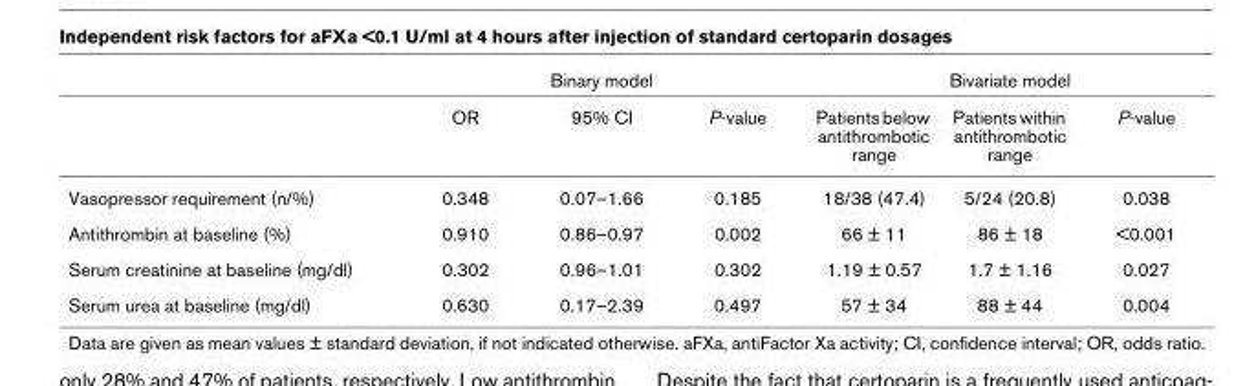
<table><thead><tr><td rowspan="2"></td><td colspan="3">Binary model</td><td colspan="3">Bivariate model</td></tr><tr><td>OR</td><td>95% CI</td><td>P-value</td><td>Patients below antithrombotic range</td><td>Patients within antithrombotic range</td><td>P-value</td></tr></thead><tbody><tr><td>Vasopressor requirement (n/%)</td><td>0.348</td><td>0.07–1.66</td><td>0.185</td><td>18/38 (47.4)</td><td>5/24 (20.8)</td><td>0.038</td></tr><tr><td>Antithrombin at baseline (%)</td><td>0.910</td><td>0.86–0.97</td><td>0.002</td><td>66 ± 11</td><td>86 ± 18</td><td>&lt;0.001</td></tr><tr><td>Serum creatinine at baseline (mg/dl)</td><td>0.302</td><td>0.96–1.01</td><td>0.302</td><td>1.19 ± 0.57</td><td>1.7 ± 1.16</td><td>0.027</td></tr><tr><td>Serum urea at baseline (mg/dl)</td><td>0.630</td><td>0.17–2.39</td><td>0.497</td><td>57 ± 34</td><td>88 ± 44</td><td>0.004</td></tr></tbody></table>